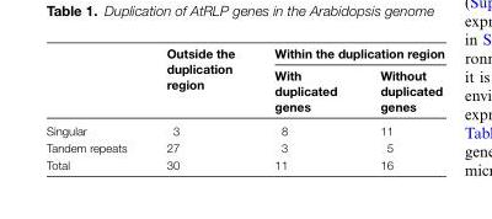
<table><thead><tr><td rowspan="2"></td><td rowspan="2">Outside the duplication region</td><td colspan="2">Within the duplication region</td></tr><tr><td>With duplicated genes</td><td>Without duplicated genes</td></tr></thead><tbody><tr><td>Singular</td><td>3</td><td>8</td><td>11</td></tr><tr><td>Tandem repeats</td><td>27</td><td>3</td><td>5</td></tr><tr><td>Total</td><td>30</td><td>11</td><td>16</td></tr></tbody></table>